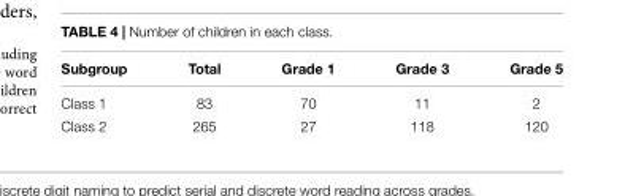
<table><thead><tr><td>Subgroup</td><td>Total</td><td>Grade 1</td><td>Grade 3</td><td>Grade 5</td></tr></thead><tbody><tr><td>Class 1</td><td>83</td><td>70</td><td>11</td><td>2</td></tr><tr><td>Class 2</td><td>265</td><td>27</td><td>118</td><td>120</td></tr></tbody></table>